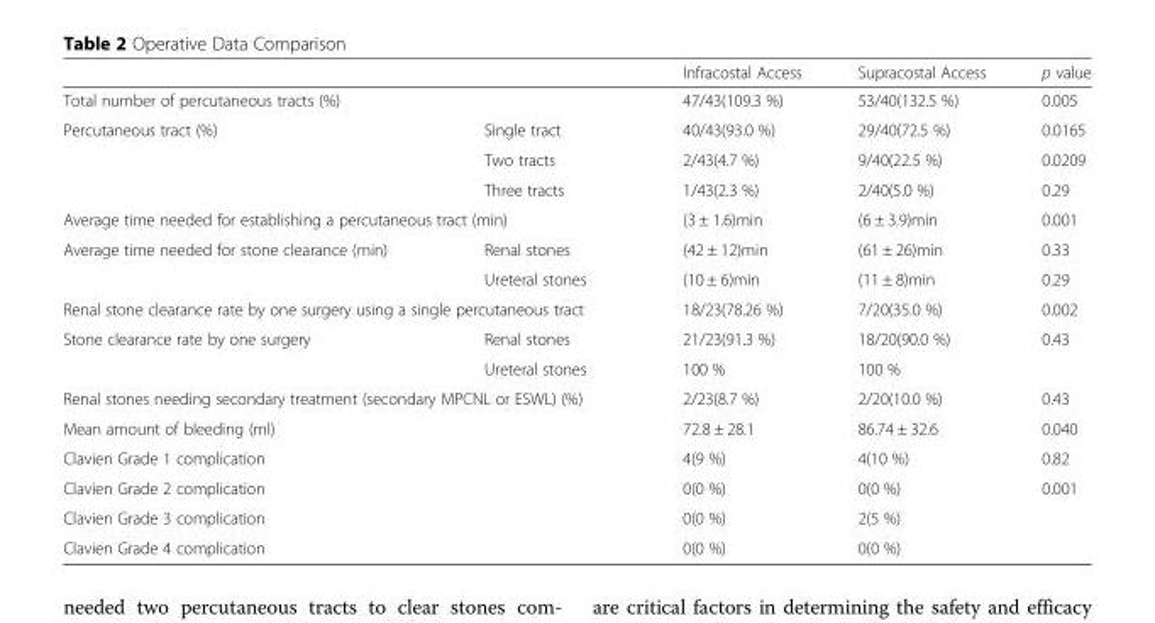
<table><thead><tr><td></td><td></td><td>Infracostal Access</td><td>Supracostal Access</td><td>p value</td></tr></thead><tbody><tr><td colspan="2">Total number of percutaneous tracts (%)</td><td>47/43(109.3 %)</td><td>53/40(132.5 %)</td><td>0.005</td></tr><tr><td rowspan="3">Percutaneous tract (%)</td><td>Single tract</td><td>40/43(93.0 %)</td><td>29/40(72.5 %)</td><td>0.0165</td></tr><tr><td>Two tracts</td><td>2/43(4.7 %)</td><td>9/40(22.5 %)</td><td>0.0209</td></tr><tr><td>Three tracts</td><td>1/43(2.3 %)</td><td>2/40(5.0 %)</td><td>0.29</td></tr><tr><td colspan="2">Average time needed for establishing a percutaneous tract (min)</td><td>(3 ± 1.6)min</td><td>(6 ± 3.9)min</td><td>0.001</td></tr><tr><td rowspan="2">Average time needed for stone clearance (min)</td><td>Renal stones</td><td>(42 ± 12)min</td><td>(61 ± 26)min</td><td>0.33</td></tr><tr><td>Ureteral stones</td><td>(10 ± 6)min</td><td>(11 ± 8)min</td><td>0.29</td></tr><tr><td colspan="2">Renal stone clearance rate by one surgery using a single percutaneous tract</td><td>18/23(78.26 %)</td><td>7/20(35.0 %)</td><td>0.002</td></tr><tr><td rowspan="2">Stone clearance rate by one surgery</td><td>Renal stones</td><td>21/23(91.3 %)</td><td>18/20(90.0 %)</td><td>0.43</td></tr><tr><td>Ureteral stones</td><td>100 %</td><td>100 %</td><td></td></tr><tr><td colspan="2">Renal stones needing secondary treatment (secondary MPCNL or ESWL) (%)</td><td>2/23(8.7 %)</td><td>2/20(10.0 %)</td><td>0.43</td></tr><tr><td colspan="2">Mean amount of bleeding (ml)</td><td>72.8 ± 28.1</td><td>86.74 ± 32.6</td><td>0.040</td></tr><tr><td colspan="2">Clavien Grade 1 complication</td><td>4(9 %)</td><td>4(10 %)</td><td>0.82</td></tr><tr><td colspan="2">Clavien Grade 2 complication</td><td>0(0 %)</td><td>0(0 %)</td><td>0.001</td></tr><tr><td colspan="2">Clavien Grade 3 complication</td><td>0(0 %)</td><td>2(5 %)</td><td></td></tr><tr><td colspan="2">Clavien Grade 4 complication</td><td>0(0 %)</td><td>0(0 %)</td><td></td></tr></tbody></table>